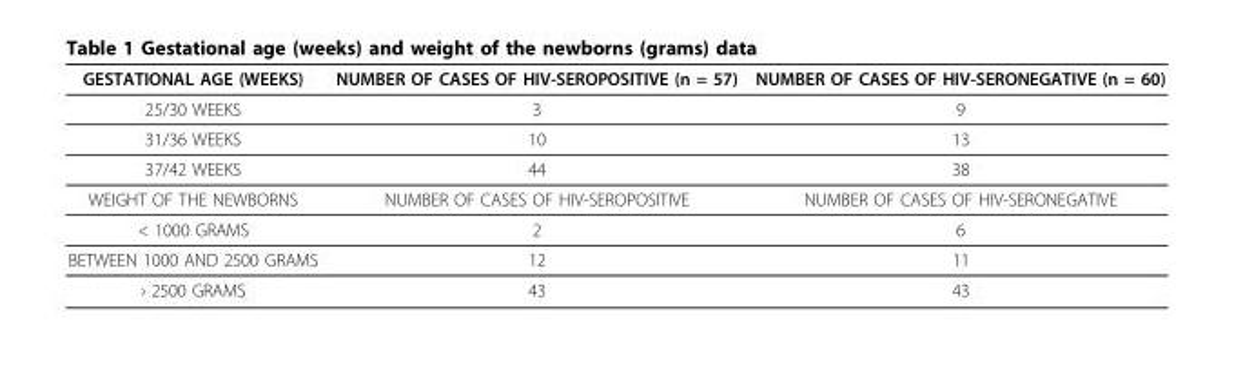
<table><thead><tr><td>GESTATIONAL AGE (WEEKS)</td><td>NUMBER OF CASES OF HIV-SEROPOSITIVE (n = 57)</td><td>NUMBER OF CASES OF HIV-SERONEGATIVE (n = 60)</td></tr></thead><tbody><tr><td>25/30 WEEKS</td><td>3</td><td>9</td></tr><tr><td>31/36 WEEKS</td><td>10</td><td>13</td></tr><tr><td>37/42 WEEKS</td><td>44</td><td>38</td></tr><tr><td>WEIGHT OF THE NEWBORNS</td><td>NUMBER OF CASES OF HIV-SEROPOSITIVE</td><td>NUMBER OF CASES OF HIV-SERONEGATIVE</td></tr><tr><td>&lt; 1000 GRAMS</td><td>2</td><td>6</td></tr><tr><td>BETWEEN 1000 AND 2500 GRAMS</td><td>12</td><td>11</td></tr><tr><td>› 2500 GRAMS</td><td>43</td><td>43</td></tr></tbody></table>